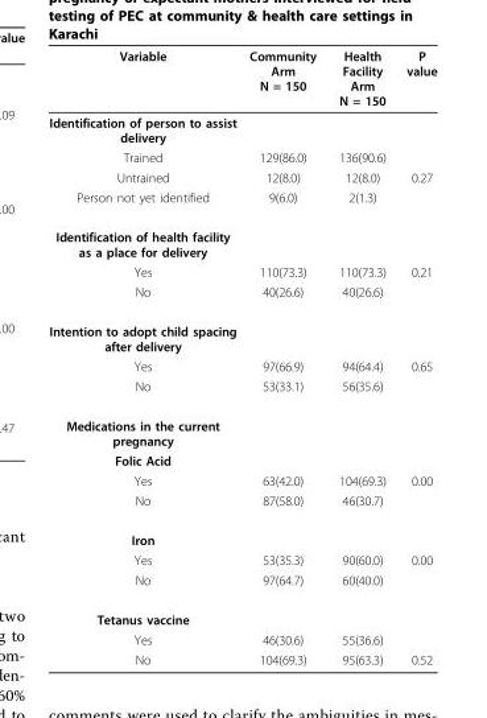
<table><thead><tr><td>Variable</td><td>Community Arm N = 150</td><td>Health Facility Arm N = 150</td><td>P value</td></tr></thead><tbody><tr><td colspan="4">Identification of person to assist delivery</td></tr><tr><td>Trained</td><td>129(86.0)</td><td>136(90.6)</td><td></td></tr><tr><td>Untrained</td><td>12(8.0)</td><td>12(8.0)</td><td>0.27</td></tr><tr><td>Person not yet identified</td><td>9(6.0)</td><td>2(1.3)</td><td></td></tr><tr><td colspan="4">Identification of health facility as a place for delivery</td></tr><tr><td>Yes</td><td>110(73.3)</td><td>110(73.3)</td><td>0.21</td></tr><tr><td>No</td><td>40(26.6)</td><td>40(26.6)</td><td></td></tr><tr><td colspan="4">Intention to adopt child spacing after delivery</td></tr><tr><td>Yes</td><td>97(66.9)</td><td>94(64.4)</td><td>0.65</td></tr><tr><td>No</td><td>53(33.1)</td><td>56(35.6)</td><td></td></tr><tr><td colspan="4">Medications in the current pregnancy</td></tr><tr><td colspan="4">Folic Acid</td></tr><tr><td>Yes</td><td>63(42.0)</td><td>104(69.3)</td><td>0.00</td></tr><tr><td>No</td><td>87(58.0)</td><td>46(30.7)</td><td></td></tr><tr><td colspan="4">Iron</td></tr><tr><td>Yes</td><td>53(35.3)</td><td>90(60.0)</td><td>0.00</td></tr><tr><td>No</td><td>97(64.7)</td><td>60(40.0)</td><td></td></tr><tr><td colspan="4">Tetanus vaccine</td></tr><tr><td>Yes</td><td>46(30.6)</td><td>55(36.6)</td><td></td></tr><tr><td>No</td><td>104(69.3)</td><td>95(63.3)</td><td>0.52</td></tr></tbody></table>